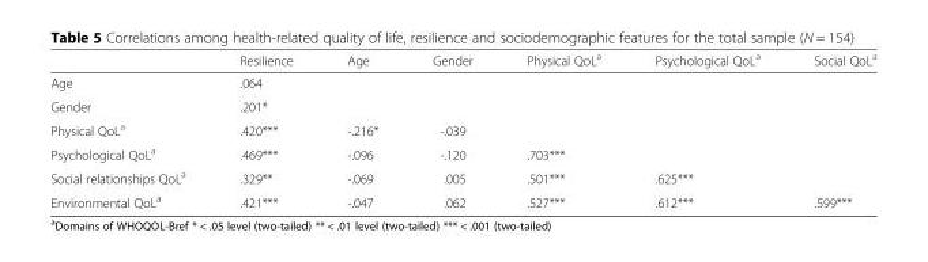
<table><thead><tr><td></td><td>Resilience</td><td>Age</td><td>Gender</td><td>Physical QoL<sup>a</sup></td><td>Psychological QoL<sup>a</sup></td><td>Social QoL<sup>a</sup></td></tr></thead><tbody><tr><td>Age</td><td>.064</td><td></td><td></td><td></td><td></td><td></td></tr><tr><td>Gender</td><td>.201*</td><td></td><td></td><td></td><td></td><td></td></tr><tr><td>Physical QoL<sup>a</sup></td><td>.420***</td><td>-.216*</td><td>-.039</td><td></td><td></td><td></td></tr><tr><td>Psychological QoL<sup>a</sup></td><td>.469***</td><td>-.096</td><td>-.120</td><td>.703***</td><td></td><td></td></tr><tr><td>Social relationships QoL<sup>a</sup></td><td>.329**</td><td>-.069</td><td>.005</td><td>.501***</td><td>.625***</td><td></td></tr><tr><td>Environmental QoL<sup>a</sup></td><td>.421***</td><td>-.047</td><td>.062</td><td>.527***</td><td>.612***</td><td>.599***</td></tr></tbody></table>